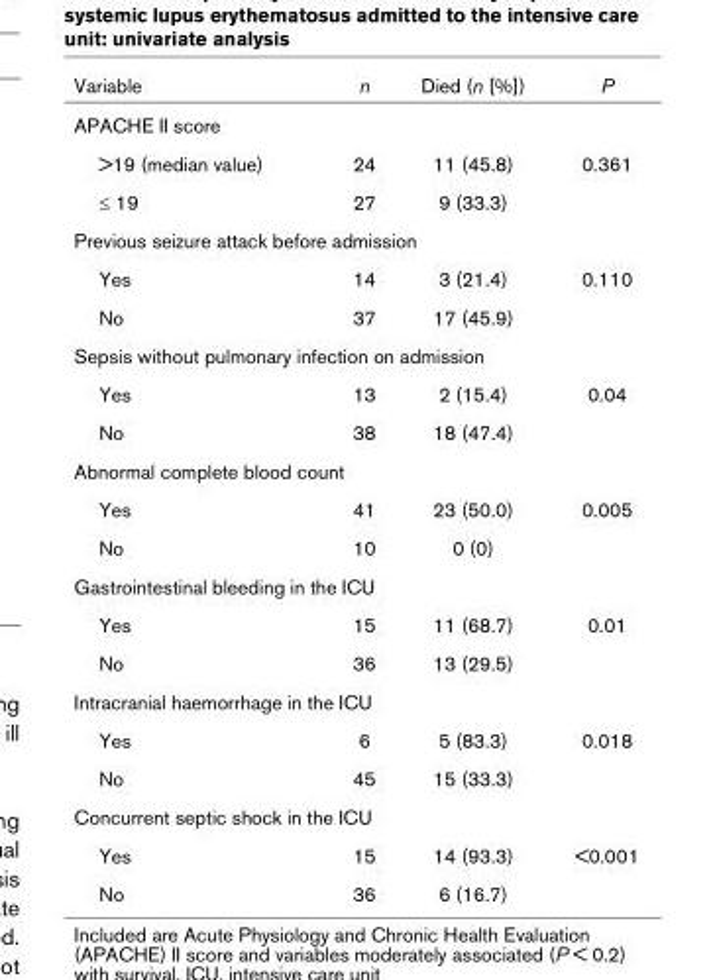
<table><thead><tr><td>Variable</td><td>n</td><td>Died (n [%])</td><td>P</td></tr></thead><tbody><tr><td colspan="4">APACHE II score</td></tr><tr><td>&gt;19 (median value)</td><td>24</td><td>11 (45.8)</td><td>0.361</td></tr><tr><td>≤ 19</td><td>27</td><td>9 (33.3)</td><td></td></tr><tr><td colspan="4">Previous seizure attack before admission</td></tr><tr><td>Yes</td><td>14</td><td>3 (21.4)</td><td>0.110</td></tr><tr><td>No</td><td>37</td><td>17 (45.9)</td><td></td></tr><tr><td colspan="4">Sepsis without pulmonary infection on admission</td></tr><tr><td>Yes</td><td>13</td><td>2 (15.4)</td><td>0.04</td></tr><tr><td>No</td><td>38</td><td>18 (47.4)</td><td></td></tr><tr><td colspan="4">Abnormal complete blood count</td></tr><tr><td>Yes</td><td>41</td><td>23 (50.0)</td><td>0.005</td></tr><tr><td>No</td><td>10</td><td>0 (0)</td><td></td></tr><tr><td colspan="4">Gastrointestinal bleeding in the ICU</td></tr><tr><td>Yes</td><td>15</td><td>11 (68.7)</td><td>0.01</td></tr><tr><td>No</td><td>36</td><td>13 (29.5)</td><td></td></tr><tr><td colspan="4">Intracranial haemorrhage in the ICU</td></tr><tr><td>Yes</td><td>6</td><td>5 (83.3)</td><td>0.018</td></tr><tr><td>No</td><td>45</td><td>15 (33.3)</td><td></td></tr><tr><td colspan="4">Concurrent septic shock in the ICU</td></tr><tr><td>Yes</td><td>15</td><td>14 (93.3)</td><td>&lt;0.001</td></tr><tr><td>No</td><td>36</td><td>6 (16.7)</td><td></td></tr></tbody></table>